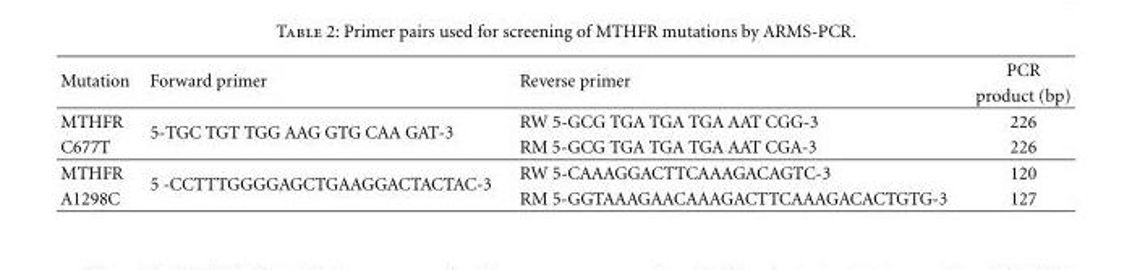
<table><thead><tr><td rowspan="2">Mutation</td><td rowspan="2">Forward primer</td><td rowspan="2">Reverse primer</td><td rowspan="2">PCR product (bp)</td></tr><tr></tr></thead><tbody><tr><td>MTHFR</td><td rowspan="2">5-TGC TGT TGG AAG GTG CAA GAT-3</td><td>RW 5-GCG TGA TGA TGA AAT CGG-3</td><td>226</td></tr><tr><td>C677T</td><td>RM 5-GCG TGA TGA TGA AAT CGA-3</td><td>226</td></tr><tr><td>MTHFR</td><td rowspan="2">5 -CCTTTGGGGAGCTGAAGGACTACTAC-3</td><td>RW 5-CAAAGGACTTCAAAGACAGTC-3</td><td>120</td></tr><tr><td>A1298C</td><td>RM 5-GGTAAAGAACAAAGACTTCAAAGACACTGTG-3</td><td>127</td></tr></tbody></table>